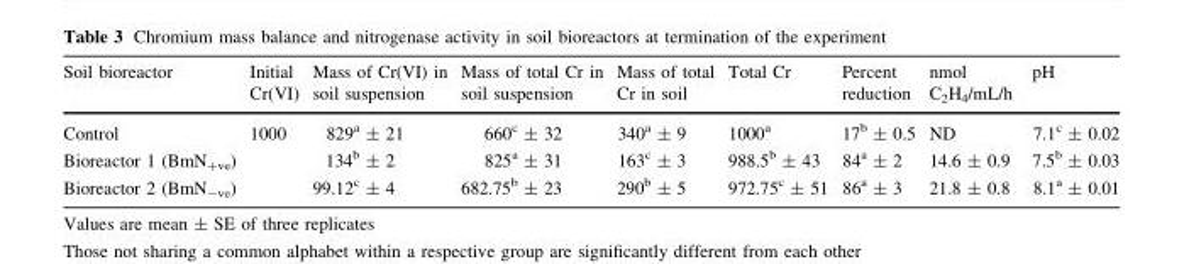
<table><thead><tr><td>Soil bioreactor</td><td>Initial Cr(VI)</td><td>Mass of Cr(VI) in soil suspension</td><td>Mass of total Cr in soil suspension</td><td>Mass of total Cr in soil</td><td>Total Cr</td><td>Percent reduction</td><td>nmol C<sub>2</sub>H<sub>4</sub>/mL/h</td><td>pH</td></tr></thead><tbody><tr><td>Control</td><td rowspan="3">1000</td><td>829<sup>a</sup> ± 21</td><td>660<sup>c</sup> ± 32</td><td>340<sup>a</sup> ± 9</td><td>1000<sup>a</sup></td><td>17<sup>b</sup> ± 0.5</td><td>ND</td><td>7.1<sup>c</sup> ± 0.02</td></tr><tr><td>Bioreactor 1 (BmN<sub>+ve</sub>)</td><td>134<sup>b</sup> ± 2</td><td>825<sup>a</sup> ± 31</td><td>163<sup>c</sup> ± 3</td><td>988.5<sup>b</sup> ± 43</td><td>84<sup>a</sup> ± 2</td><td>14.6 ± 0.9</td><td>7.5<sup>b</sup> ± 0.03</td></tr><tr><td>Bioreactor 2 (BmN<sub>-ve</sub>)</td><td>99.12<sup>c</sup> ± 4</td><td>682.75<sup>b</sup> ± 23</td><td>290<sup>b</sup> ± 5</td><td>972.75<sup>c</sup> ± 51</td><td>86<sup>a</sup> ± 3</td><td>21.8 ± 0.8</td><td>8.1<sup>a</sup> ± 0.01</td></tr></tbody></table>